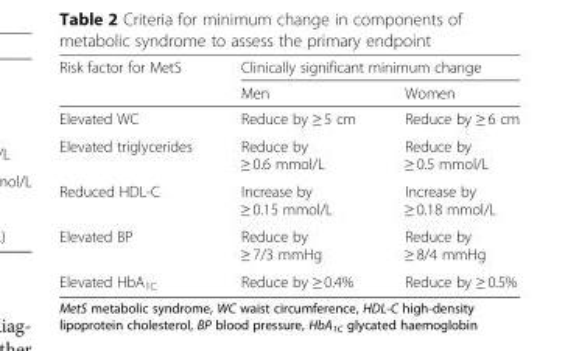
<table><thead><tr><td rowspan="2">Risk factor for MetS</td><td colspan="2">Clinically significant minimum change</td></tr><tr><td>Men</td><td>Women</td></tr></thead><tbody><tr><td>Elevated WC</td><td>Reduce by ≥ 5 cm</td><td>Reduce by ≥ 6 cm</td></tr><tr><td>Elevated triglycerides</td><td>Reduce by ≥ 0.6 mmol/L</td><td>Reduce by ≥ 0.5 mmol/L</td></tr><tr><td>Reduced HDL-C</td><td>Increase by ≥ 0.15 mmol/L</td><td>Increase by ≥ 0.18 mmol/L</td></tr><tr><td>Elevated BP</td><td>Reduce by ≥ 7/3 mmHg</td><td>Reduce by ≥ 8/4 mmHg</td></tr><tr><td>Elevated HbA<sub>1C</sub></td><td>Reduce by ≥ 0.4%</td><td>Reduce by ≥ 0.5%</td></tr></tbody></table>